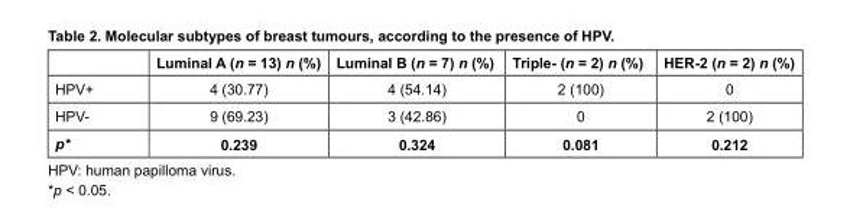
<table><thead><tr><td></td><td>Luminal A (n = 13) n (%)</td><td>Luminal B (n = 7) n (%)</td><td>Triple- (n = 2) n (%)</td><td>HER-2 (n = 2) n (%)</td></tr></thead><tbody><tr><td>HPV+</td><td>4 (30.77)</td><td>4 (54.14)</td><td>2 (100)</td><td>0</td></tr><tr><td>HPV-</td><td>9 (69.23)</td><td>3 (42.86)</td><td>0</td><td>2 (100)</td></tr><tr><td>p*</td><td>0.239</td><td>0.324</td><td>0.081</td><td>0.212</td></tr></tbody></table>